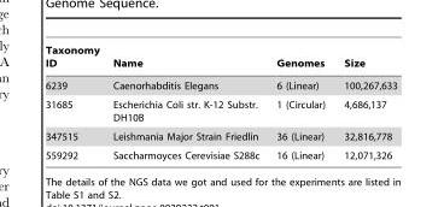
<table><thead><tr><td>Taxonomy ID</td><td>Name</td><td>Genomes</td><td>Size</td></tr></thead><tbody><tr><td>6239</td><td>Caenorhabditis Elegans</td><td>6 (Linear)</td><td>100,267,633</td></tr><tr><td>31685</td><td>Escherichia Coli str. K-12 Substr. DH10B</td><td>1 (Circular)</td><td>4,686,137</td></tr><tr><td>347515</td><td>Leishmania Major Strain Friedlin</td><td>36 (Linear)</td><td>32,816,778</td></tr><tr><td>559292</td><td>Saccharmoyces Cerevisiae S288c</td><td>16 (Linear)</td><td>12,071,326</td></tr></tbody></table>